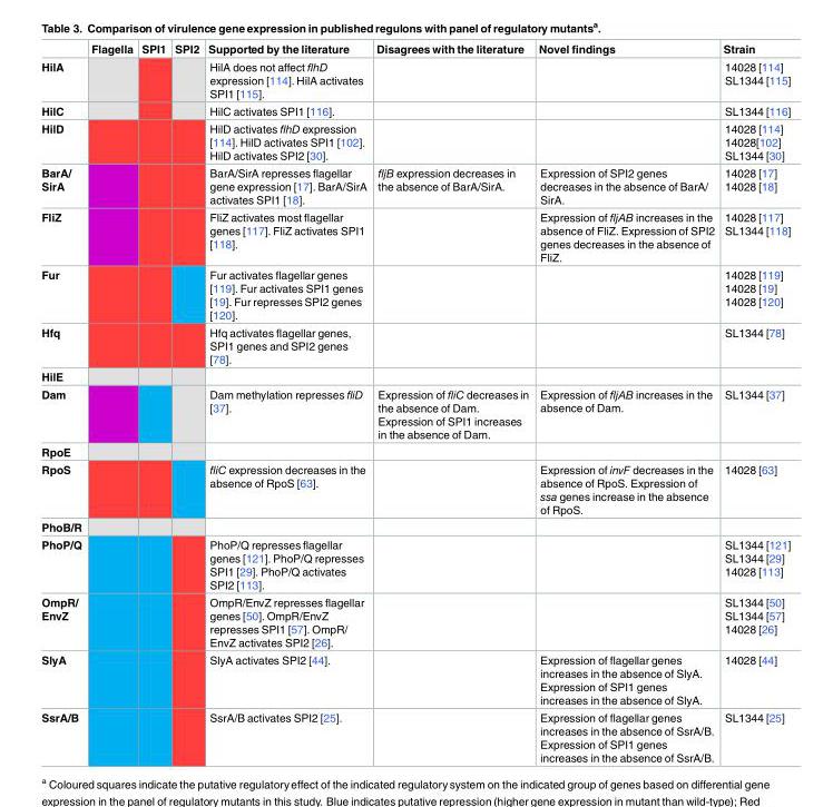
<table><thead><tr><td></td><td>Flagella</td><td>SPI1</td><td>SPI2</td><td>Supported by the literature</td><td>Disagrees with the literature</td><td>Novel findings</td><td>Strain</td></tr></thead><tbody><tr><td>HilA</td><td></td><td></td><td></td><td>HilA does not affect flhD expression [114]. HilA activates SPI1 [115].</td><td></td><td></td><td>14028 [114] SL1344 [115]</td></tr><tr><td>HilC</td><td></td><td></td><td></td><td>HilC activates SPI1 [116].</td><td></td><td></td><td>SL1344 [116]</td></tr><tr><td>HilD</td><td></td><td></td><td></td><td>HilD activates flhD expression [114]. HilD activates SPI1 [102]. HilD activates SPI2 [30].</td><td></td><td></td><td>14028 [114] 14028[102] SL1344 [30]</td></tr><tr><td>BarA/ SirA</td><td></td><td></td><td></td><td>BarA/SirA represses flagellar gene expression [17]. BarA/SirA activates SPI1 [18].</td><td>fljB expression decreases in the absence of BarA/SirA.</td><td>Expression of SPI2 genes decreases in the absence of BarA/ SirA.</td><td>14028 [17] 14028 [18]</td></tr><tr><td>FliZ</td><td></td><td></td><td></td><td>FliZ activates most flagellar genes [117]. FliZ activates SPI1 [118].</td><td></td><td>Expression of fljAB increases in the absence of FliZ. Expression of SPI2 genes decreases in the absence of FliZ.</td><td>14028 [117] SL1344 [118]</td></tr><tr><td>Fur</td><td></td><td></td><td></td><td>Fur activates flagellar genes [119]. Fur activates SPI1 genes [19]. Fur represses SPI2 genes [120].</td><td></td><td></td><td>14028 [119] 14028 [19] 14028 [120]</td></tr><tr><td>Hfq</td><td></td><td></td><td></td><td>Hfq activates flagellar genes, SPI1 genes and SPI2 genes [78].</td><td></td><td></td><td>SL1344 [78]</td></tr><tr><td colspan="8">HilE</td></tr><tr><td>Dam</td><td></td><td></td><td></td><td>Dam methylation represses fliD [37].</td><td>Expression of fliC decreases in the absence of Dam. Expression of SPI1 increases in the absence of Dam.</td><td>Expression of fljAB increases in the absence of Dam.</td><td>SL1344 [37]</td></tr><tr><td colspan="8">RpoE</td></tr><tr><td>RpoS</td><td></td><td></td><td></td><td>fliC expression decreases in the absence of RpoS [63].</td><td></td><td>Expression of invF decreases in the absence of RpoS. Expression of ssa genes increase in the absence of RpoS.</td><td>14028 [63]</td></tr><tr><td colspan="8">PhoB/R</td></tr><tr><td>PhoP/Q</td><td></td><td></td><td></td><td>PhoP/Q represses flagellar genes [121]. PhoP/Q represses SPI1 [29]. PhoP/Q activates SPI2 [113].</td><td></td><td></td><td>SL1344 [121] SL1344 [29] 14028 [113]</td></tr><tr><td>OmpR/ EnvZ</td><td></td><td></td><td></td><td>OmpR/EnvZ represses flagellar genes [50]. OmpR/EnvZ represses SPI1 [57]. OmpR/ EnvZ activates SPI2 [26].</td><td></td><td></td><td>SL1344 [50] SL1344 [57] 14028 [26]</td></tr><tr><td>SlyA</td><td></td><td></td><td></td><td>SlyA activates SPI2 [44].</td><td></td><td>Expression of flagellar genes increases in the absence of SlyA. Expression of SPI1 genes increases in the absence of SlyA.</td><td>14028 [44]</td></tr><tr><td>SsrA/B</td><td></td><td></td><td></td><td>SsrA/B activates SPI2 [25].</td><td></td><td>Expression of flagellar genes increases in the absence of SsrA/B. Expression of SPI1 genes increases in the absence of SsrA/B.</td><td>SL1344 [25]</td></tr></tbody></table>